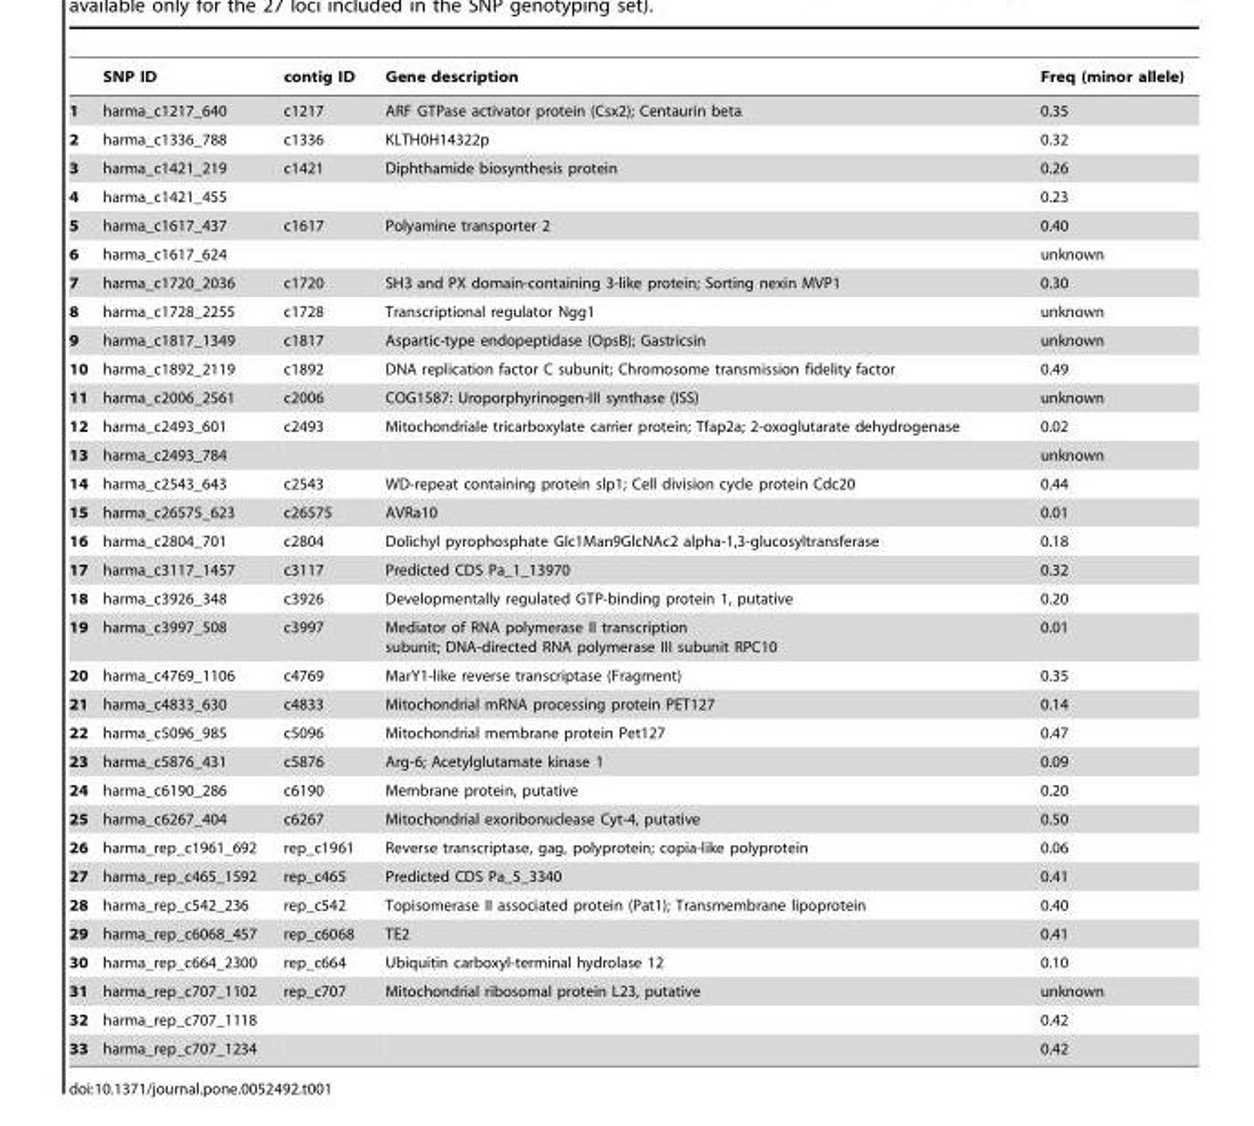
<table><thead><tr><td></td><td>SNP ID</td><td>contig ID</td><td>Gene description</td><td>Freq (minor allele)</td></tr></thead><tbody><tr><td>1</td><td>harma_c1217_640</td><td>c1217</td><td>ARF GTPase activator protein (Csx2); Centaurin beta</td><td>0.35</td></tr><tr><td>2</td><td>harma_c1336_788</td><td>c1336</td><td>KLTH0H14322p</td><td>0.32</td></tr><tr><td>3</td><td>harma_c1421_219</td><td>c1421</td><td>Diphthamide biosynthesis protein</td><td>0.26</td></tr><tr><td>4</td><td>harma_c1421_455</td><td></td><td></td><td>0.23</td></tr><tr><td>5</td><td>harma_c1617_437</td><td>c1617</td><td>Polyamine transporter 2</td><td>0.40</td></tr><tr><td>6</td><td>harma_c1617_624</td><td></td><td></td><td>unknown</td></tr><tr><td>7</td><td>harma_c1720_2036</td><td>c1720</td><td>SH3 and PX domain-containing 3-like protein; Sorting nexin MVP1</td><td>0.30</td></tr><tr><td>8</td><td>harma_c1728_2255</td><td>c1728</td><td>Transcriptional regulator Ngg1</td><td>unknown</td></tr><tr><td>9</td><td>harma_c1817_1349</td><td>c1817</td><td>Aspartic-type endopeptidase (OpsB); Gastricsin</td><td>unknown</td></tr><tr><td>10</td><td>harma_c1892_2119</td><td>c1892</td><td>DNA replication factor C subunit; Chromosome transmission fidelity factor</td><td>0.49</td></tr><tr><td>11</td><td>harma_c2006_2561</td><td>c2006</td><td>COG1587: Uroporphyrinogen-III synthase (ISS)</td><td>unknown</td></tr><tr><td>12</td><td>harma_c2493_601</td><td>c2493</td><td>Mitochondriale tricarboxylate carrier protein; Tfap2a; 2-oxoglutarate dehydrogenase</td><td>0.02</td></tr><tr><td>13</td><td>harma_c2493_784</td><td></td><td></td><td>unknown</td></tr><tr><td>14</td><td>harma_c2543_643</td><td>c2543</td><td>WD-repeat containing protein slp1; Cell division cycle protein Cdc20</td><td>0.44</td></tr><tr><td>15</td><td>harma_c26575_623</td><td>c26575</td><td>AVRa10</td><td>0.01</td></tr><tr><td>16</td><td>harma_c2804_701</td><td>c2804</td><td>Dolichyl pyrophosphate Glc1Man9GlcNAc2 alpha-1,3-glucosyltransferase</td><td>0.18</td></tr><tr><td>17</td><td>harma_c3117_1457</td><td>c3117</td><td>Predicted CDS Pa_1_13970</td><td>0.32</td></tr><tr><td>18</td><td>harma_c3926_348</td><td>c3926</td><td>Developmentally regulated GTP-binding protein 1, putative</td><td>0.20</td></tr><tr><td>19</td><td>harma_c3997_508</td><td>c3997</td><td>Mediator of RNA polymerase II transcription subunit; DNA-directed RNA polymerase III subunit RPC10</td><td>0.01</td></tr><tr><td>20</td><td>harma_c4769_1106</td><td>c4769</td><td>MarY1-like reverse transcriptase (Fragment)</td><td>0.35</td></tr><tr><td>21</td><td>harma_c4833_630</td><td>c4833</td><td>Mitochondrial mRNA processing protein PET127</td><td>0.14</td></tr><tr><td>22</td><td>harma_c5096_985</td><td>c5096</td><td>Mitochondrial membrane protein Pet127</td><td>0.47</td></tr><tr><td>23</td><td>harma_c5876_431</td><td>c5876</td><td>Arg-6; Acetylglutamate kinase 1</td><td>0.09</td></tr><tr><td>24</td><td>harma_c6190_286</td><td>c6190</td><td>Membrane protein, putative</td><td>0.20</td></tr><tr><td>25</td><td>harma_c6267_404</td><td>c6267</td><td>Mitochondrial exoribonuclease Cyt-4, putative</td><td>0.50</td></tr><tr><td>26</td><td>harma_rep_c1961_692</td><td>rep_c1961</td><td>Reverse transcriptase, gag, polyprotein; copia-like polyprotein</td><td>0.06</td></tr><tr><td>27</td><td>harma_rep_c465_1592</td><td>rep_c465</td><td>Predicted CDS Pa_5_3340</td><td>0.41</td></tr><tr><td>28</td><td>harma_rep_c542_236</td><td>rep_c542</td><td>Topisomerase II associated protein (Pat1); Transmembrane lipoprotein</td><td>0.40</td></tr><tr><td>29</td><td>harma_rep_c6068_457</td><td>rep_c6068</td><td>TE2</td><td>0.41</td></tr><tr><td>30</td><td>harma_rep_c664_2300</td><td>rep_c664</td><td>Ubiquitin carboxyl-terminal hydrolase 12</td><td>0.10</td></tr><tr><td>31</td><td>harma_rep_c707_1102</td><td>rep_c707</td><td>Mitochondrial ribosomal protein L23, putative</td><td>unknown</td></tr><tr><td>32</td><td>harma_rep_c707_1118</td><td></td><td></td><td>0.42</td></tr><tr><td>33</td><td>harma_rep_c707_1234</td><td></td><td></td><td>0.42</td></tr></tbody></table>